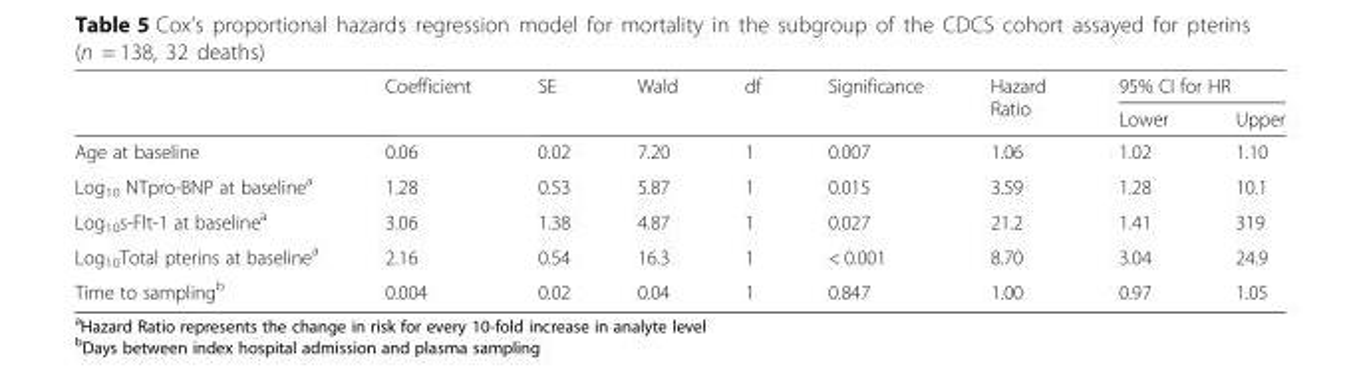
<table><thead><tr><td rowspan="2"></td><td rowspan="2">Coefficient</td><td rowspan="2">SE</td><td rowspan="2">Wald</td><td rowspan="2">df</td><td rowspan="2">Significance</td><td rowspan="2">Hazard Ratio</td><td colspan="2">95% CI for HR</td></tr><tr><td>Lower</td><td>Upper</td></tr></thead><tbody><tr><td>Age at baseline</td><td>0.06</td><td>0.02</td><td>7.20</td><td>1</td><td>0.007</td><td>1.06</td><td>1.02</td><td>1.10</td></tr><tr><td>Log<sub>10</sub> NTpro-BNP at baseline<sup>a</sup></td><td>1.28</td><td>0.53</td><td>5.87</td><td>1</td><td>0.015</td><td>3.59</td><td>1.28</td><td>10.1</td></tr><tr><td>Log<sub>10</sub>s-Flt-1 at baseline<sup>a</sup></td><td>3.06</td><td>1.38</td><td>4.87</td><td>1</td><td>0.027</td><td>21.2</td><td>1.41</td><td>319</td></tr><tr><td>Log<sub>10</sub>Total pterins at baseline<sup>a</sup></td><td>2.16</td><td>0.54</td><td>16.3</td><td>1</td><td>&lt; 0.001</td><td>8.70</td><td>3.04</td><td>24.9</td></tr><tr><td>Time to sampling<sup>b</sup></td><td>0.004</td><td>0.02</td><td>0.04</td><td>1</td><td>0.847</td><td>1.00</td><td>0.97</td><td>1.05</td></tr></tbody></table>